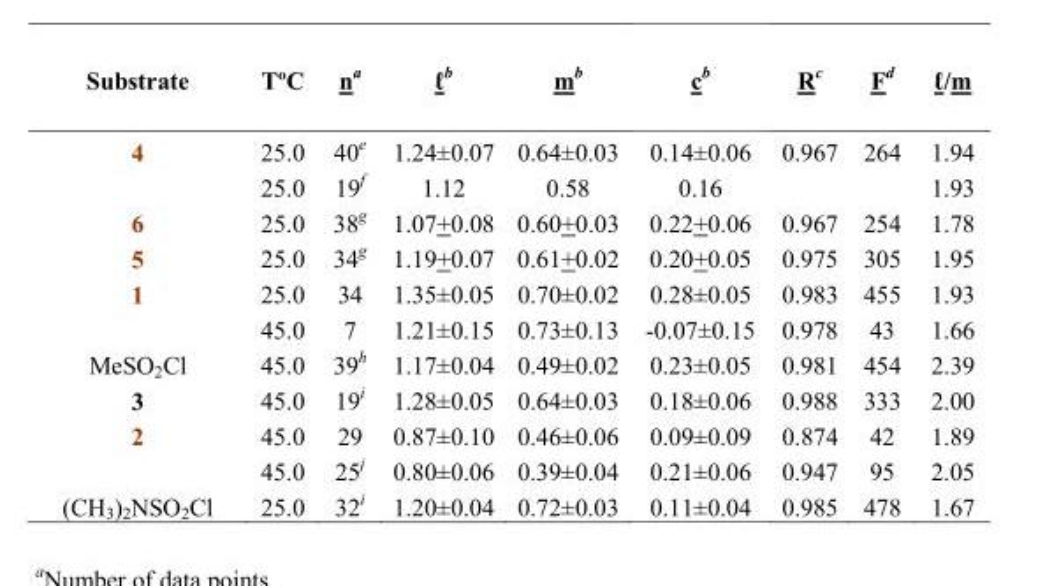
<table><thead><tr><td>Substrate</td><td>TºC</td><td>na</td><td>ℓb</td><td>mb</td><td>cb</td><td>Rc</td><td>Fd</td><td>ℓ/m</td></tr></thead><tbody><tr><td rowspan="2">4</td><td>25.0</td><td>40e</td><td>1.24±0.07</td><td>0.64±0.03</td><td>0.14±0.06</td><td>0.967</td><td>264</td><td>1.94</td></tr><tr><td>25.0</td><td>19f</td><td>1.12</td><td>0.58</td><td>0.16</td><td></td><td></td><td>1.93</td></tr><tr><td>6</td><td>25.0</td><td>38g</td><td>1.07+0.08</td><td>0.60+0.03</td><td>0.22+0.06</td><td>0.967</td><td>254</td><td>1.78</td></tr><tr><td>5</td><td>25.0</td><td>34g</td><td>1.19+0.07</td><td>0.61+0.02</td><td>0.20+0.05</td><td>0.975</td><td>305</td><td>1.95</td></tr><tr><td rowspan="2">1</td><td>25.0</td><td>34</td><td>1.35±0.05</td><td>0.70±0.02</td><td>0.28±0.05</td><td>0.983</td><td>455</td><td>1.93</td></tr><tr><td>45.0</td><td>7</td><td>1.21±0.15</td><td>0.73±0.13</td><td>-0.07±0.15</td><td>0.978</td><td>43</td><td>1.66</td></tr><tr><td>MeSO<sub>2</sub>Cl</td><td>45.0</td><td>39h</td><td>1.17±0.04</td><td>0.49±0.02</td><td>0.23±0.05</td><td>0.981</td><td>454</td><td>2.39</td></tr><tr><td>3</td><td>45.0</td><td>19i</td><td>1.28±0.05</td><td>0.64±0.03</td><td>0.18±0.06</td><td>0.988</td><td>333</td><td>2.00</td></tr><tr><td rowspan="2">2</td><td>45.0</td><td>29</td><td>0.87±0.10</td><td>0.46±0.06</td><td>0.09±0.09</td><td>0.874</td><td>42</td><td>1.89</td></tr><tr><td>45.0</td><td>25j</td><td>0.80±0.06</td><td>0.39±0.04</td><td>0.21±0.06</td><td>0.947</td><td>95</td><td>2.05</td></tr><tr><td>(CH<sub>3</sub>)<sub>2</sub>NSO<sub>2</sub>Cl</td><td>25.0</td><td>32i</td><td>1.20±0.04</td><td>0.72±0.03</td><td>0.11±0.04</td><td>0.985</td><td>478</td><td>1.67</td></tr></tbody></table>